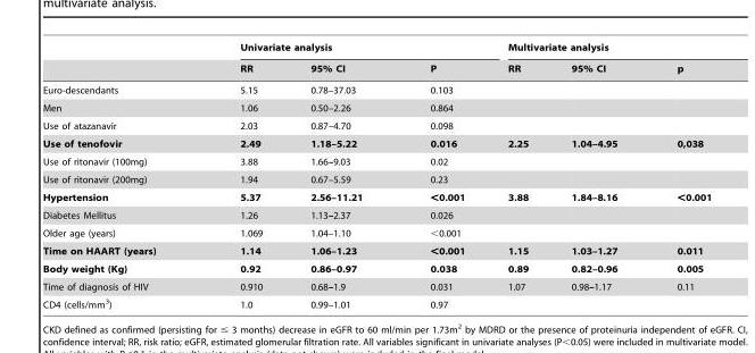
<table><thead><tr><td rowspan="2"></td><td colspan="3">Univariate analysis</td><td colspan="3">Multivariate analysis</td></tr><tr><td>RR</td><td>95% CI</td><td>P</td><td>RR</td><td>95% CI</td><td>p</td></tr></thead><tbody><tr><td>Euro-descendants</td><td>5.15</td><td>0.78–37.03</td><td>0.103</td><td></td><td></td><td></td></tr><tr><td>Men</td><td>1.06</td><td>0.50–2.26</td><td>0.864</td><td></td><td></td><td></td></tr><tr><td>Use of atazanavir</td><td>2.03</td><td>0.87–4.70</td><td>0.098</td><td></td><td></td><td></td></tr><tr><td>Use of tenofovir</td><td>2.49</td><td>1.18–5.22</td><td>0.016</td><td>2.25</td><td>1.04–4.95</td><td>0,038</td></tr><tr><td>Use of ritonavir (100mg)</td><td>3.88</td><td>1.66–9.03</td><td>0.02</td><td></td><td></td><td></td></tr><tr><td>Use of ritonavir (200mg)</td><td>1.94</td><td>0.67–5.59</td><td>0.23</td><td></td><td></td><td></td></tr><tr><td>Hypertension</td><td>5.37</td><td>2.56–11.21</td><td>&lt;0.001</td><td>3.88</td><td>1.84–8.16</td><td>&lt;0.001</td></tr><tr><td>Diabetes Mellitus</td><td>1.26</td><td>1.13–2.37</td><td>0.026</td><td></td><td></td><td></td></tr><tr><td>Older age (years)</td><td>1.069</td><td>1.04–1.10</td><td>&lt;0.001</td><td></td><td></td><td></td></tr><tr><td>Time on HAART (years)</td><td>1.14</td><td>1.06–1.23</td><td>&lt;0.001</td><td>1.15</td><td>1.03–1.27</td><td>0.011</td></tr><tr><td>Body weight (Kg)</td><td>0.92</td><td>0.86–0.97</td><td>0.038</td><td>0.89</td><td>0.82–0.96</td><td>0.005</td></tr><tr><td>Time of diagnosis of HIV</td><td>0.910</td><td>0.68–1.9</td><td>0.031</td><td>1.07</td><td>0.98–1.17</td><td>0.11</td></tr><tr><td>CD4 (cells/mm<sup>3</sup>)</td><td>1.0</td><td>0.99–1.01</td><td>0.97</td><td></td><td></td><td></td></tr></tbody></table>